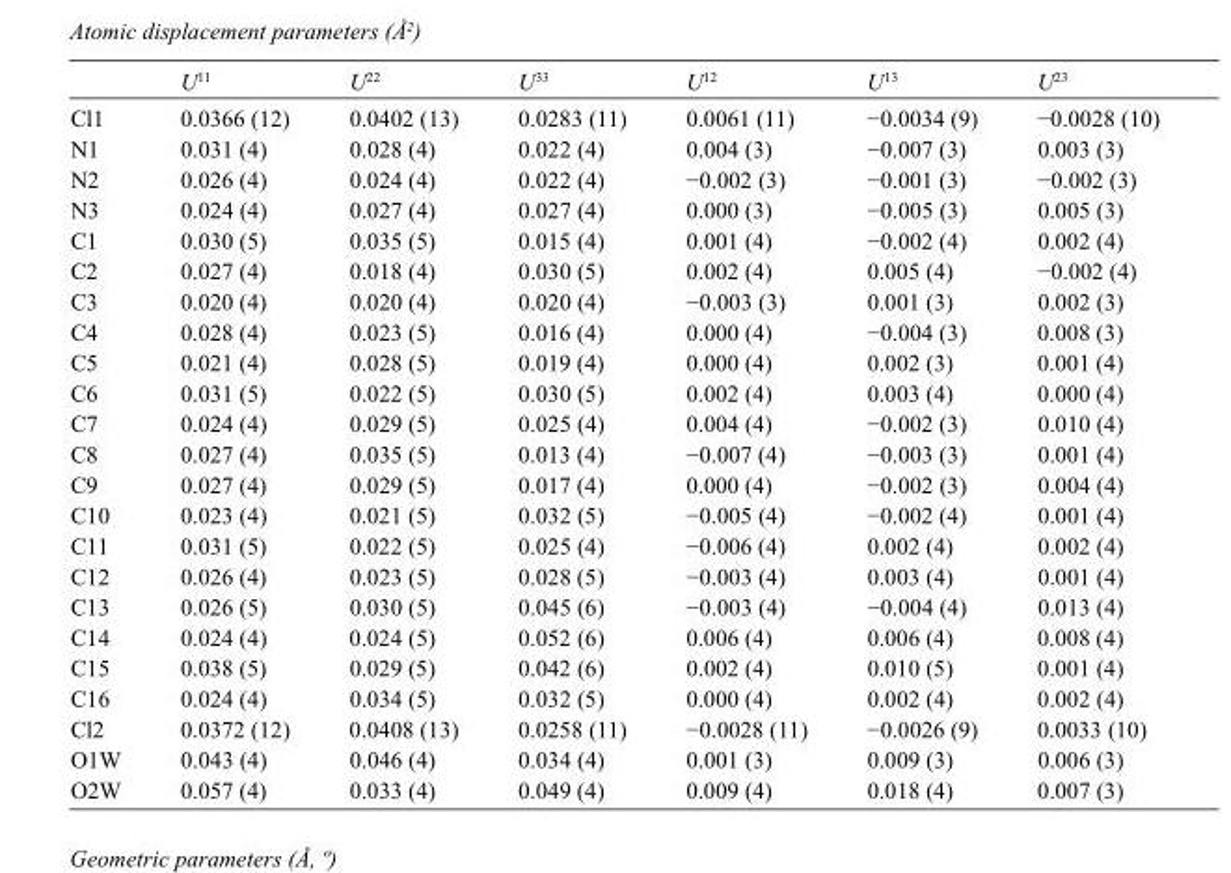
<table><thead><tr><td></td><td>U<sup>11</sup></td><td>U<sup>22</sup></td><td>U<sup>33</sup></td><td>U<sup>12</sup></td><td>U<sup>13</sup></td><td>U<sup>23</sup></td></tr></thead><tbody><tr><td>Cl1</td><td>0.0366 (12)</td><td>0.0402 (13)</td><td>0.0283 (11)</td><td>0.0061 (11)</td><td>−0.0034 (9)</td><td>−0.0028 (10)</td></tr><tr><td>N1</td><td>0.031 (4)</td><td>0.028 (4)</td><td>0.022 (4)</td><td>0.004 (3)</td><td>−0.007 (3)</td><td>0.003 (3)</td></tr><tr><td>N2</td><td>0.026 (4)</td><td>0.024 (4)</td><td>0.022 (4)</td><td>−0.002 (3)</td><td>−0.001 (3)</td><td>−0.002 (3)</td></tr><tr><td>N3</td><td>0.024 (4)</td><td>0.027 (4)</td><td>0.027 (4)</td><td>0.000 (3)</td><td>−0.005 (3)</td><td>0.005 (3)</td></tr><tr><td>C1</td><td>0.030 (5)</td><td>0.035 (5)</td><td>0.015 (4)</td><td>0.001 (4)</td><td>−0.002 (4)</td><td>0.002 (4)</td></tr><tr><td>C2</td><td>0.027 (4)</td><td>0.018 (4)</td><td>0.030 (5)</td><td>0.002 (4)</td><td>0.005 (4)</td><td>−0.002 (4)</td></tr><tr><td>C3</td><td>0.020 (4)</td><td>0.020 (4)</td><td>0.020 (4)</td><td>−0.003 (3)</td><td>0.001 (3)</td><td>0.002 (3)</td></tr><tr><td>C4</td><td>0.028 (4)</td><td>0.023 (5)</td><td>0.016 (4)</td><td>0.000 (4)</td><td>−0.004 (3)</td><td>0.008 (3)</td></tr><tr><td>C5</td><td>0.021 (4)</td><td>0.028 (5)</td><td>0.019 (4)</td><td>0.000 (4)</td><td>0.002 (3)</td><td>0.001 (4)</td></tr><tr><td>C6</td><td>0.031 (5)</td><td>0.022 (5)</td><td>0.030 (5)</td><td>0.002 (4)</td><td>0.003 (4)</td><td>0.000 (4)</td></tr><tr><td>C7</td><td>0.024 (4)</td><td>0.029 (5)</td><td>0.025 (4)</td><td>0.004 (4)</td><td>−0.002 (3)</td><td>0.010 (4)</td></tr><tr><td>C8</td><td>0.027 (4)</td><td>0.035 (5)</td><td>0.013 (4)</td><td>−0.007 (4)</td><td>−0.003 (3)</td><td>0.001 (4)</td></tr><tr><td>C9</td><td>0.027 (4)</td><td>0.029 (5)</td><td>0.017 (4)</td><td>0.000 (4)</td><td>−0.002 (3)</td><td>0.004 (4)</td></tr><tr><td>C10</td><td>0.023 (4)</td><td>0.021 (5)</td><td>0.032 (5)</td><td>−0.005 (4)</td><td>−0.002 (4)</td><td>0.001 (4)</td></tr><tr><td>C11</td><td>0.031 (5)</td><td>0.022 (5)</td><td>0.025 (4)</td><td>−0.006 (4)</td><td>0.002 (4)</td><td>0.002 (4)</td></tr><tr><td>C12</td><td>0.026 (4)</td><td>0.023 (5)</td><td>0.028 (5)</td><td>−0.003 (4)</td><td>0.003 (4)</td><td>0.001 (4)</td></tr><tr><td>C13</td><td>0.026 (5)</td><td>0.030 (5)</td><td>0.045 (6)</td><td>−0.003 (4)</td><td>−0.004 (4)</td><td>0.013 (4)</td></tr><tr><td>C14</td><td>0.024 (4)</td><td>0.024 (5)</td><td>0.052 (6)</td><td>0.006 (4)</td><td>0.006 (4)</td><td>0.008 (4)</td></tr><tr><td>C15</td><td>0.038 (5)</td><td>0.029 (5)</td><td>0.042 (6)</td><td>0.002 (4)</td><td>0.010 (5)</td><td>0.001 (4)</td></tr><tr><td>C16</td><td>0.024 (4)</td><td>0.034 (5)</td><td>0.032 (5)</td><td>0.000 (4)</td><td>0.002 (4)</td><td>0.002 (4)</td></tr><tr><td>Cl2</td><td>0.0372 (12)</td><td>0.0408 (13)</td><td>0.0258 (11)</td><td>−0.0028 (11)</td><td>−0.0026 (9)</td><td>0.0033 (10)</td></tr><tr><td>O1W</td><td>0.043 (4)</td><td>0.046 (4)</td><td>0.034 (4)</td><td>0.001 (3)</td><td>0.009 (3)</td><td>0.006 (3)</td></tr><tr><td>O2W</td><td>0.057 (4)</td><td>0.033 (4)</td><td>0.049 (4)</td><td>0.009 (4)</td><td>0.018 (4)</td><td>0.007 (3)</td></tr></tbody></table>